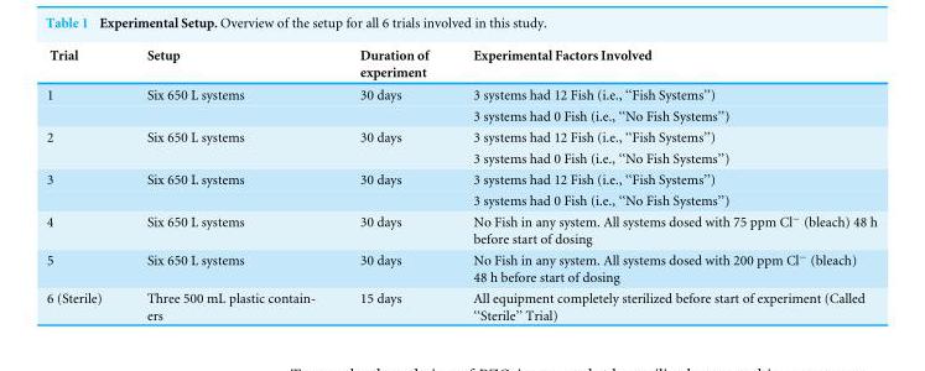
<table><thead><tr><td>Trial</td><td>Setup</td><td>Duration of experiment</td><td>Experimental Factors Involved</td></tr></thead><tbody><tr><td rowspan="2">1</td><td>Six 650 L systems</td><td>30 days</td><td>3 systems had 12 Fish (i.e., ‘‘Fish Systems’’)</td></tr><tr><td></td><td></td><td>3 systems had 0 Fish (i.e., ‘‘No Fish Systems’’)</td></tr><tr><td rowspan="2">2</td><td>Six 650 L systems</td><td>30 days</td><td>3 systems had 12 Fish (i.e., ‘‘Fish Systems’’)</td></tr><tr><td></td><td></td><td>3 systems had 0 Fish (i.e., ‘‘No Fish Systems’’)</td></tr><tr><td rowspan="2">3</td><td>Six 650 L systems</td><td>30 days</td><td>3 systems had 12 Fish (i.e., ‘‘Fish Systems’’)</td></tr><tr><td></td><td></td><td>3 systems had 0 Fish (i.e., ‘‘No Fish Systems’’)</td></tr><tr><td>4</td><td>Six 650 L systems</td><td>30 days</td><td>No Fish in any system. All systems dosed with 75 ppm Cl<sup>−</sup> (bleach) 48 h before start of dosing</td></tr><tr><td>5</td><td>Six 650 L systems</td><td>30 days</td><td>No Fish in any system. All systems dosed with 200 ppm Cl<sup>−</sup> (bleach) 48 h before start of dosing</td></tr><tr><td>6 (Sterile)</td><td>Three 500 mL plastic contain- ers</td><td>15 days</td><td>All equipment completely sterilized before start of experiment (Called ‘‘Sterile’’ Trial)</td></tr></tbody></table>